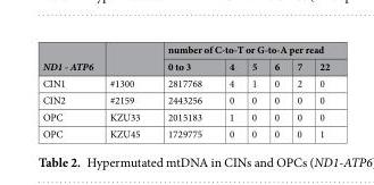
<table><thead><tr><td rowspan="2">ND1 - ATP6</td><td rowspan="2"></td><td colspan="6">number of C-to-T or G-to-A per read</td></tr><tr><td>0 to 3</td><td>4</td><td>5</td><td>6</td><td>7</td><td>22</td></tr></thead><tbody><tr><td>CIN1</td><td>#1300</td><td>2817768</td><td>4</td><td>1</td><td>0</td><td>2</td><td>0</td></tr><tr><td>CIN2</td><td>#2159</td><td>2443256</td><td>0</td><td>0</td><td>0</td><td>0</td><td>0</td></tr><tr><td>OPC</td><td>KZU33</td><td>2015183</td><td>1</td><td>0</td><td>0</td><td>0</td><td>0</td></tr><tr><td>OPC</td><td>KZU45</td><td>1729775</td><td>0</td><td>0</td><td>0</td><td>0</td><td>1</td></tr></tbody></table>